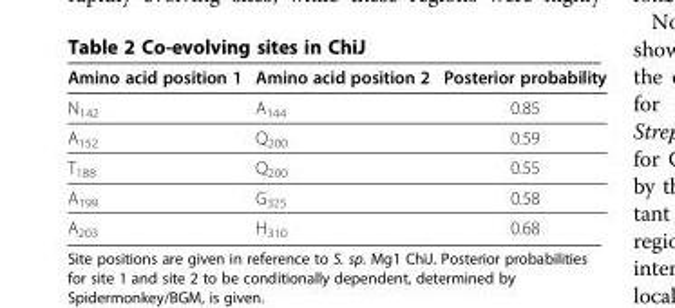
<table><thead><tr><td>Amino acid position 1</td><td>Amino acid position 2</td><td>Posterior probability</td></tr></thead><tbody><tr><td>N<sub>142</sub></td><td>A<sub>144</sub></td><td>0.85</td></tr><tr><td>A<sub>152</sub></td><td>Q<sub>200</sub></td><td>0.59</td></tr><tr><td>T<sub>188</sub></td><td>Q<sub>200</sub></td><td>0.55</td></tr><tr><td>A<sub>199</sub></td><td>G<sub>325</sub></td><td>0.58</td></tr><tr><td>A<sub>203</sub></td><td>H<sub>310</sub></td><td>0.68</td></tr></tbody></table>